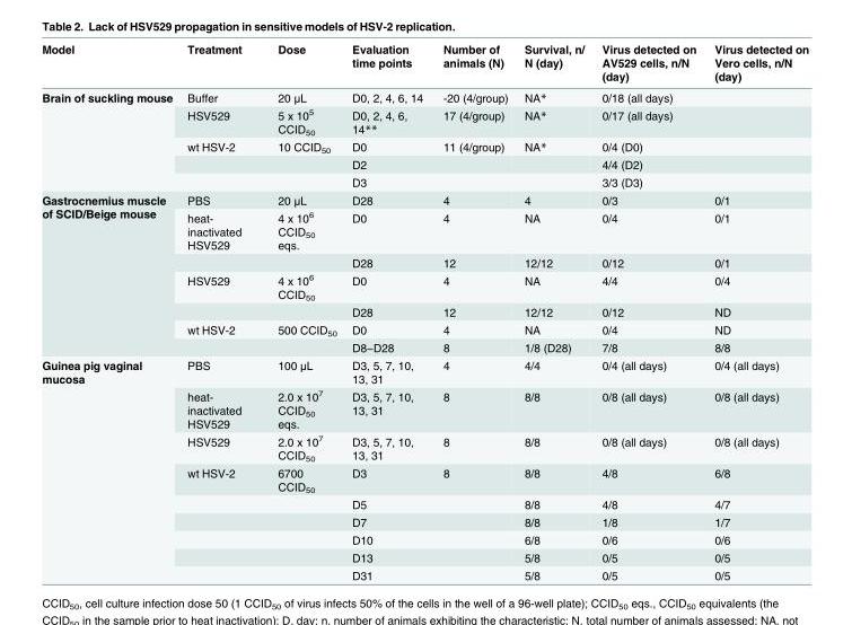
<table><thead><tr><td>Model</td><td>Treatment</td><td>Dose</td><td>Evaluation time points</td><td>Number of animals (N)</td><td>Survival, n/ N (day)</td><td>Virus detected on AV529 cells, n/N (day)</td><td>Virus detected on Vero cells, n/N (day)</td></tr></thead><tbody><tr><td rowspan="5">Brain of suckling mouse</td><td>Buffer</td><td>20 μL</td><td>D0, 2, 4, 6, 14</td><td>-20 (4/group)</td><td>NA*</td><td>0/18 (all days)</td><td></td></tr><tr><td>HSV529</td><td>5 x 10<sup>5</sup> CCID<sub>50</sub></td><td>D0, 2, 4, 6, 14**</td><td>17 (4/group)</td><td>NA*</td><td>0/17 (all days)</td><td></td></tr><tr><td>wt HSV-2</td><td>10 CCID<sub>50</sub></td><td>D0</td><td>11 (4/group)</td><td>NA*</td><td>0/4 (D0)</td><td></td></tr><tr><td></td><td></td><td>D2</td><td></td><td></td><td>4/4 (D2)</td><td></td></tr><tr><td></td><td></td><td>D3</td><td></td><td></td><td>3/3 (D3)</td><td></td></tr><tr><td rowspan="7">Gastrocnemius muscle of SCID/Beige mouse</td><td>PBS</td><td>20 μL</td><td>D28</td><td>4</td><td>4</td><td>0/3</td><td>0/1</td></tr><tr><td>heat- inactivated HSV529</td><td>4 x 10<sup>6</sup> CCID<sub>50</sub> eqs.</td><td>D0</td><td>4</td><td>NA</td><td>0/4</td><td>0/1</td></tr><tr><td></td><td></td><td>D28</td><td>12</td><td>12/12</td><td>0/12</td><td>0/1</td></tr><tr><td>HSV529</td><td>4 x 10<sup>6</sup> CCID<sub>50</sub></td><td>D0</td><td>4</td><td>NA</td><td>4/4</td><td>0/4</td></tr><tr><td></td><td></td><td>D28</td><td>12</td><td>12/12</td><td>0/12</td><td>ND</td></tr><tr><td>wt HSV-2</td><td>500 CCID<sub>50</sub></td><td>D0</td><td>4</td><td>NA</td><td>0/4</td><td>ND</td></tr><tr><td></td><td></td><td>D8−D28</td><td>8</td><td>1/8 (D28)</td><td>7/8</td><td>8/8</td></tr><tr><td rowspan="9">Guinea pig vaginal mucosa</td><td>PBS</td><td>100 μL</td><td>D3, 5, 7, 10, 13, 31</td><td>4</td><td>4/4</td><td>0/4 (all days)</td><td>0/4 (all days)</td></tr><tr><td>heat- inactivated HSV529</td><td>2.0 x 10<sup>7</sup> CCID<sub>50</sub> eqs.</td><td>D3, 5, 7, 10, 13, 31</td><td>8</td><td>8/8</td><td>0/8 (all days)</td><td>0/8 (all days)</td></tr><tr><td>HSV529</td><td>2.0 x 10<sup>7</sup> CCID<sub>50</sub></td><td>D3, 5, 7, 10, 13, 31</td><td>8</td><td>8/8</td><td>0/8 (all days)</td><td>0/8 (all days)</td></tr><tr><td>wt HSV-2</td><td>6700 CCID<sub>50</sub></td><td>D3</td><td>8</td><td>8/8</td><td>4/8</td><td>6/8</td></tr><tr><td></td><td></td><td>D5</td><td></td><td>8/8</td><td>4/8</td><td>4/7</td></tr><tr><td></td><td></td><td>D7</td><td></td><td>8/8</td><td>1/8</td><td>1/7</td></tr><tr><td></td><td></td><td>D10</td><td></td><td>6/8</td><td>0/6</td><td>0/6</td></tr><tr><td></td><td></td><td>D13</td><td></td><td>5/8</td><td>0/5</td><td>0/5</td></tr><tr><td></td><td></td><td>D31</td><td></td><td>5/8</td><td>0/5</td><td>0/5</td></tr></tbody></table>